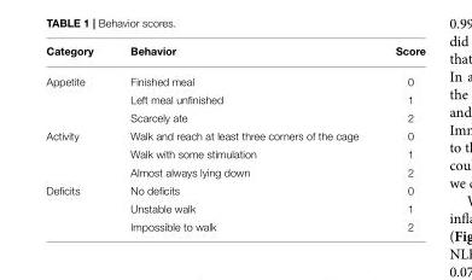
<table><thead><tr><td>Category</td><td>Behavior</td><td>Score</td></tr></thead><tbody><tr><td rowspan="3">Appetite</td><td>Finished meal</td><td>0</td></tr><tr><td>Left meal unfinished</td><td>1</td></tr><tr><td>Scarcely ate</td><td>2</td></tr><tr><td rowspan="3">Activity</td><td>Walk and reach at least three corners of the cage</td><td>0</td></tr><tr><td>Walk with some stimulation</td><td>1</td></tr><tr><td>Almost always lying down</td><td>2</td></tr><tr><td rowspan="3">Deficits</td><td>No deficits</td><td>0</td></tr><tr><td>Unstable walk</td><td>1</td></tr><tr><td>Impossible to walk</td><td>2</td></tr></tbody></table>